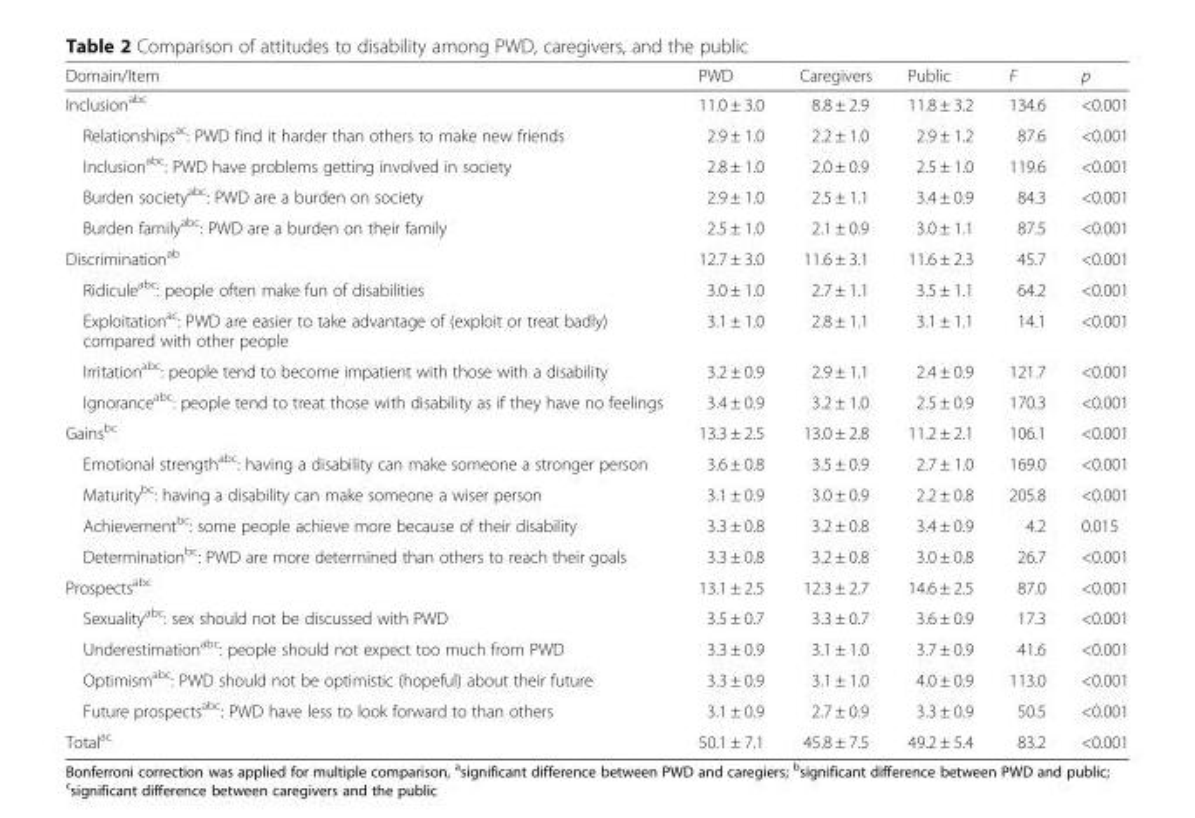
<table><thead><tr><td>Domain/Item</td><td>PWD</td><td>Caregivers</td><td>Public</td><td>F</td><td>p</td></tr></thead><tbody><tr><td>Inclusion<sup>abc</sup></td><td>11.0 ± 3.0</td><td>8.8 ± 2.9</td><td>11.8 ± 3.2</td><td>134.6</td><td>&lt;0.001</td></tr><tr><td>Relationships<sup>ac</sup>: PWD find it harder than others to make new friends</td><td>2.9 ± 1.0</td><td>2.2 ± 1.0</td><td>2.9 ± 1.2</td><td>87.6</td><td>&lt;0.001</td></tr><tr><td>Inclusion<sup>abc</sup>: PWD have problems getting involved in society</td><td>2.8 ± 1.0</td><td>2.0 ± 0.9</td><td>2.5 ± 1.0</td><td>119.6</td><td>&lt;0.001</td></tr><tr><td>Burden society<sup>abc</sup>: PWD are a burden on society</td><td>2.9 ± 1.0</td><td>2.5 ± 1.1</td><td>3.4 ± 0.9</td><td>84.3</td><td>&lt;0.001</td></tr><tr><td>Burden family<sup>abc</sup>: PWD are a burden on their family</td><td>2.5 ± 1.0</td><td>2.1 ± 0.9</td><td>3.0 ± 1.1</td><td>87.5</td><td>&lt;0.001</td></tr><tr><td>Discrimination<sup>ab</sup></td><td>12.7 ± 3.0</td><td>11.6 ± 3.1</td><td>11.6 ± 2.3</td><td>45.7</td><td>&lt;0.001</td></tr><tr><td>Ridicule<sup>abc</sup>: people often make fun of disabilities</td><td>3.0 ± 1.0</td><td>2.7 ± 1.1</td><td>3.5 ± 1.1</td><td>64.2</td><td>&lt;0.001</td></tr><tr><td>Exploitation<sup>ac</sup>: PWD are easier to take advantage of (exploit or treat badly) compared with other people</td><td>3.1 ± 1.0</td><td>2.8 ± 1.1</td><td>3.1 ± 1.1</td><td>14.1</td><td>&lt;0.001</td></tr><tr><td>Irritation<sup>abc</sup>: people tend to become impatient with those with a disability</td><td>3.2 ± 0.9</td><td>2.9 ± 1.1</td><td>2.4 ± 0.9</td><td>121.7</td><td>&lt;0.001</td></tr><tr><td>Ignorance<sup>abc</sup>: people tend to treat those with disability as if they have no feelings</td><td>3.4 ± 0.9</td><td>3.2 ± 1.0</td><td>2.5 ± 0.9</td><td>170.3</td><td>&lt;0.001</td></tr><tr><td>Gains<sup>bc</sup></td><td>13.3 ± 2.5</td><td>13.0 ± 2.8</td><td>11.2 ± 2.1</td><td>106.1</td><td>&lt;0.001</td></tr><tr><td>Emotional strength<sup>abc</sup>: having a disability can make someone a stronger person</td><td>3.6 ± 0.8</td><td>3.5 ± 0.9</td><td>2.7 ± 1.0</td><td>169.0</td><td>&lt;0.001</td></tr><tr><td>Maturity<sup>bc</sup>: having a disability can make someone a wiser person</td><td>3.1 ± 0.9</td><td>3.0 ± 0.9</td><td>2.2 ± 0.8</td><td>205.8</td><td>&lt;0.001</td></tr><tr><td>Achievement<sup>bc</sup>: some people achieve more because of their disability</td><td>3.3 ± 0.8</td><td>3.2 ± 0.8</td><td>3.4 ± 0.9</td><td>4.2</td><td>0.015</td></tr><tr><td>Determination<sup>bc</sup>: PWD are more determined than others to reach their goals</td><td>3.3 ± 0.8</td><td>3.2 ± 0.8</td><td>3.0 ± 0.8</td><td>26.7</td><td>&lt;0.001</td></tr><tr><td>Prospects<sup>abc</sup></td><td>13.1 ± 2.5</td><td>12.3 ± 2.7</td><td>14.6 ± 2.5</td><td>87.0</td><td>&lt;0.001</td></tr><tr><td>Sexuality<sup>abc</sup>: sex should not be discussed with PWD</td><td>3.5 ± 0.7</td><td>3.3 ± 0.7</td><td>3.6 ± 0.9</td><td>17.3</td><td>&lt;0.001</td></tr><tr><td>Underestimation<sup>abc</sup>: people should not expect too much from PWD</td><td>3.3 ± 0.9</td><td>3.1 ± 1.0</td><td>3.7 ± 0.9</td><td>41.6</td><td>&lt;0.001</td></tr><tr><td>Optimism<sup>abc</sup>: PWD should not be optimistic (hopeful) about their future</td><td>3.3 ± 0.9</td><td>3.1 ± 1.0</td><td>4.0 ± 0.9</td><td>113.0</td><td>&lt;0.001</td></tr><tr><td>Future prospects<sup>abc</sup>: PWD have less to look forward to than others</td><td>3.1 ± 0.9</td><td>2.7 ± 0.9</td><td>3.3 ± 0.9</td><td>50.5</td><td>&lt;0.001</td></tr><tr><td>Total<sup>ac</sup></td><td>50.1 ± 7.1</td><td>45.8 ± 7.5</td><td>49.2 ± 5.4</td><td>83.2</td><td>&lt;0.001</td></tr></tbody></table>